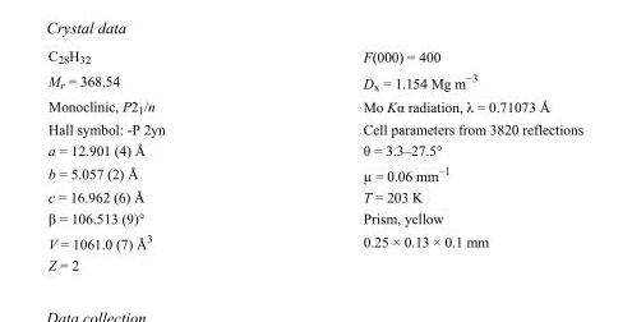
<table><tbody><tr><td>C<sub>28</sub>H<sub>32</sub></td><td>F(000) = 400</td></tr><tr><td>M<sub>r</sub> = 368.54</td><td>D<sub>x</sub> = 1.154 Mg m<sup>−3</sup></td></tr><tr><td>Monoclinic, P2<sub>1</sub>/n</td><td>Mo Kα radiation, λ = 0.71073 Å</td></tr><tr><td>Hall symbol: -P 2yn</td><td>Cell parameters from 3820 reflections</td></tr><tr><td>a = 12.901 (4) Å</td><td>θ = 3.3–27.5°</td></tr><tr><td>b = 5.057 (2) Å</td><td>µ = 0.06 mm<sup>−1</sup></td></tr><tr><td>c = 16.962 (6) Å</td><td>T = 203 K</td></tr><tr><td>β = 106.513 (9)°</td><td>Prism, yellow</td></tr><tr><td>V = 1061.0 (7) Å<sup>3</sup></td><td>0.25 × 0.13 × 0.1 mm</td></tr><tr><td>Z = 2</td><td></td></tr></tbody></table>